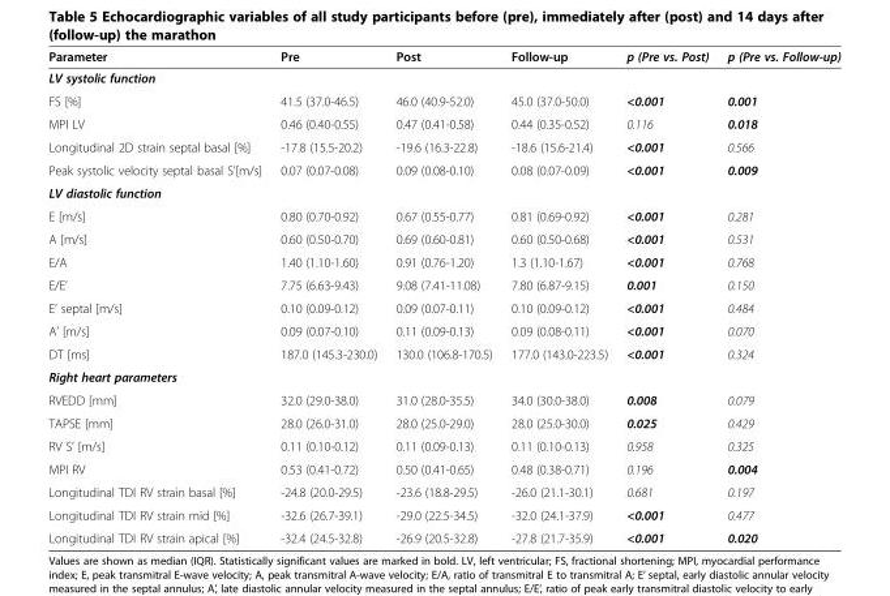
<table><thead><tr><td>Parameter</td><td>Pre</td><td>Post</td><td>Follow-up</td><td>p (Pre vs. Post)</td><td>p (Pre vs. Follow-up)</td></tr></thead><tbody><tr><td colspan="6">LV systolic function</td></tr><tr><td>FS [%]</td><td>41.5 (37.0-46.5)</td><td>46.0 (40.9-52.0)</td><td>45.0 (37.0-50.0)</td><td>&lt;0.001</td><td>0.001</td></tr><tr><td>MPI LV</td><td>0.46 (0.40-0.55)</td><td>0.47 (0.41-0.58)</td><td>0.44 (0.35-0.52)</td><td>0.116</td><td>0.018</td></tr><tr><td>Longitudinal 2D strain septal basal [%]</td><td>-17.8 (15.5-20.2)</td><td>-19.6 (16.3-22.8)</td><td>-18.6 (15.6-21.4)</td><td>&lt;0.001</td><td>0.566</td></tr><tr><td>Peak systolic velocity septal basal S’[m/s]</td><td>0.07 (0.07-0.08)</td><td>0.09 (0.08-0.10)</td><td>0.08 (0.07-0.09)</td><td>&lt;0.001</td><td>0.009</td></tr><tr><td colspan="6">LV diastolic function</td></tr><tr><td>E [m/s]</td><td>0.80 (0.70-0.92)</td><td>0.67 (0.55-0.77)</td><td>0.81 (0.69-0.92)</td><td>&lt;0.001</td><td>0.281</td></tr><tr><td>A [m/s]</td><td>0.60 (0.50-0.70)</td><td>0.69 (0.60-0.81)</td><td>0.60 (0.50-0.68)</td><td>&lt;0.001</td><td>0.531</td></tr><tr><td>E/A</td><td>1.40 (1.10-1.60)</td><td>0.91 (0.76-1.20)</td><td>1.3 (1.10-1.67)</td><td>&lt;0.001</td><td>0.768</td></tr><tr><td>E/E’</td><td>7.75 (6.63-9.43)</td><td>9.08 (7.41-11.08)</td><td>7.80 (6.87-9.15)</td><td>0.001</td><td>0.150</td></tr><tr><td>E’ septal [m/s]</td><td>0.10 (0.09-0.12)</td><td>0.09 (0.07-0.11)</td><td>0.10 (0.09-0.12)</td><td>&lt;0.001</td><td>0.484</td></tr><tr><td>A’ [m/s]</td><td>0.09 (0.07-0.10)</td><td>0.11 (0.09-0.13)</td><td>0.09 (0.08-0.11)</td><td>&lt;0.001</td><td>0.070</td></tr><tr><td>DT [ms]</td><td>187.0 (145.3-230.0)</td><td>130.0 (106.8-170.5)</td><td>177.0 (143.0-223.5)</td><td>&lt;0.001</td><td>0.324</td></tr><tr><td colspan="6">Right heart parameters</td></tr><tr><td>RVEDD [mm]</td><td>32.0 (29.0-38.0)</td><td>31.0 (28.0-35.5)</td><td>34.0 (30.0-38.0)</td><td>0.008</td><td>0.079</td></tr><tr><td>TAPSE [mm]</td><td>28.0 (26.0-31.0)</td><td>28.0 (25.0-29.0)</td><td>28.0 (25.0-30.0)</td><td>0.025</td><td>0.429</td></tr><tr><td>RV S’ [m/s]</td><td>0.11 (0.10-0.12)</td><td>0.11 (0.09-0.13)</td><td>0.11 (0.10-0.13)</td><td>0.958</td><td>0.325</td></tr><tr><td>MPI RV</td><td>0.53 (0.41-0.72)</td><td>0.50 (0.41-0.65)</td><td>0.48 (0.38-0.71)</td><td>0.196</td><td>0.004</td></tr><tr><td>Longitudinal TDI RV strain basal [%]</td><td>-24.8 (20.0-29.5)</td><td>-23.6 (18.8-29.5)</td><td>-26.0 (21.1-30.1)</td><td>0.681</td><td>0.197</td></tr><tr><td>Longitudinal TDI RV strain mid [%]</td><td>-32.6 (26.7-39.1)</td><td>-29.0 (22.5-34.5)</td><td>-32.0 (24.1-37.9)</td><td>&lt;0.001</td><td>0.477</td></tr><tr><td>Longitudinal TDI RV strain apical [%]</td><td>-32.4 (24.5-32.8)</td><td>-26.9 (20.5-32.8)</td><td>-27.8 (21.7-35.9)</td><td>&lt;0.001</td><td>0.020</td></tr></tbody></table>